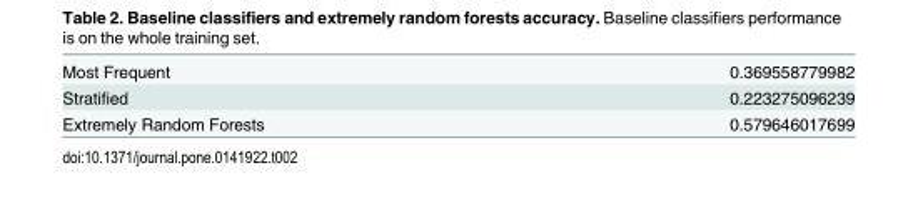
<table><tbody><tr><td>Most Frequent</td><td>0.369558779982</td></tr><tr><td>Stratified</td><td>0.223275096239</td></tr><tr><td>Extremely Random Forests</td><td>0.579646017699</td></tr></tbody></table>